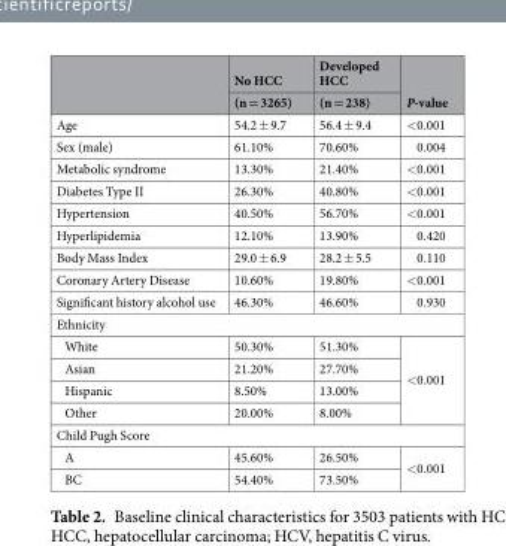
<table><thead><tr><td rowspan="2"></td><td rowspan="2">No HCC (n = 3265)</td><td rowspan="2">Developed HCC (n = 238)</td><td rowspan="2">P-value</td></tr><tr></tr></thead><tbody><tr><td>Age</td><td>54.2 ± 9.7</td><td>56.4 ± 9.4</td><td>&lt;0.001</td></tr><tr><td>Sex (male)</td><td>61.10%</td><td>70.60%</td><td>0.004</td></tr><tr><td>Metabolic syndrome</td><td>13.30%</td><td>21.40%</td><td>&lt;0.001</td></tr><tr><td>Diabetes Type II</td><td>26.30%</td><td>40.80%</td><td>&lt;0.001</td></tr><tr><td>Hypertension</td><td>40.50%</td><td>56.70%</td><td>&lt;0.001</td></tr><tr><td>Hyperlipidemia</td><td>12.10%</td><td>13.90%</td><td>0.420</td></tr><tr><td>Body Mass Index</td><td>29.0 ± 6.9</td><td>28.2 ± 5.5</td><td>0.110</td></tr><tr><td>Coronary Artery Disease</td><td>10.60%</td><td>19.80%</td><td>&lt;0.001</td></tr><tr><td>Significant history alcohol use</td><td>46.30%</td><td>46.60%</td><td>0.930</td></tr><tr><td colspan="4">Ethnicity</td></tr><tr><td>White</td><td>50.30%</td><td>51.30%</td><td rowspan="4">&lt;0.001</td></tr><tr><td>Asian</td><td>21.20%</td><td>27.70%</td></tr><tr><td>Hispanic</td><td>8.50%</td><td>13.00%</td></tr><tr><td>Other</td><td>20.00%</td><td>8.00%</td></tr><tr><td colspan="4">Child Pugh Score</td></tr><tr><td>A</td><td>45.60%</td><td>26.50%</td><td rowspan="2">&lt;0.001</td></tr><tr><td>BC</td><td>54.40%</td><td>73.50%</td></tr></tbody></table>